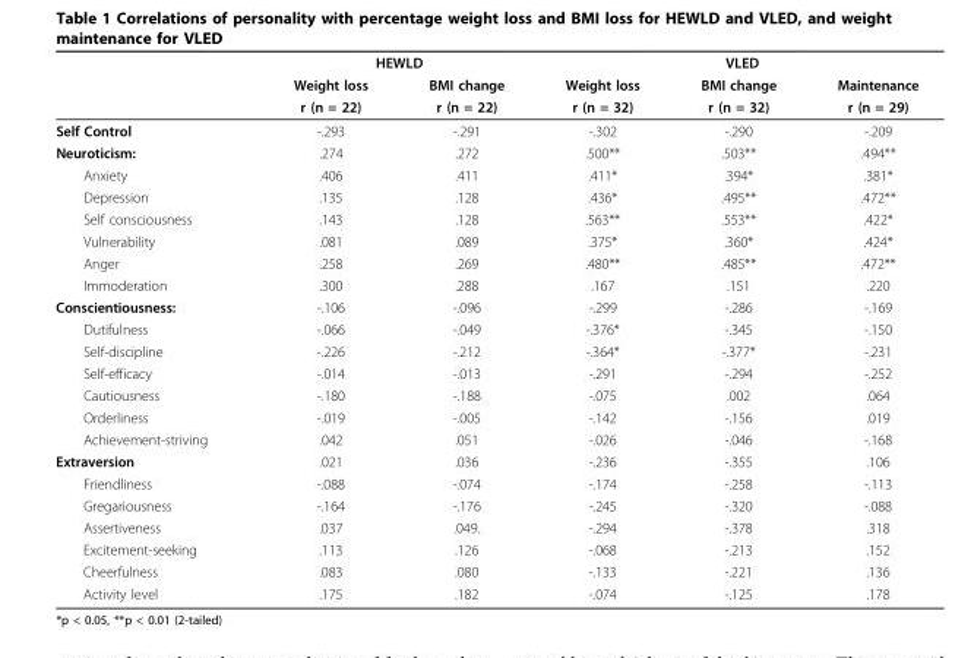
<table><thead><tr><td rowspan="3"></td><td colspan="2">HEWLD</td><td colspan="3">VLED</td></tr><tr><td rowspan="2">Weight loss r (n = 22)</td><td rowspan="2">BMI change r (n = 22)</td><td rowspan="2">Weight loss r (n = 32)</td><td rowspan="2">BMI change r (n = 32)</td><td rowspan="2">Maintenance r (n = 29)</td></tr><tr></tr></thead><tbody><tr><td>Self Control</td><td>-.293</td><td>-.291</td><td>-.302</td><td>-.290</td><td>-.209</td></tr><tr><td>Neuroticism:</td><td>.274</td><td>.272</td><td>.500**</td><td>.503**</td><td>.494**</td></tr><tr><td>Anxiety</td><td>.406</td><td>.411</td><td>.411*</td><td>.394*</td><td>.381*</td></tr><tr><td>Depression</td><td>.135</td><td>.128</td><td>.436*</td><td>.495**</td><td>.472**</td></tr><tr><td>Self consciousness</td><td>.143</td><td>.128</td><td>.563**</td><td>.553**</td><td>.422*</td></tr><tr><td>Vulnerability</td><td>.081</td><td>.089</td><td>.375*</td><td>.360*</td><td>.424*</td></tr><tr><td>Anger</td><td>.258</td><td>.269</td><td>.480**</td><td>.485**</td><td>.472**</td></tr><tr><td>Immoderation</td><td>.300</td><td>.288</td><td>.167</td><td>.151</td><td>.220</td></tr><tr><td>Conscientiousness:</td><td>-.106</td><td>-.096</td><td>-.299</td><td>-.286</td><td>-.169</td></tr><tr><td>Dutifulness</td><td>-.066</td><td>-.049</td><td>-.376*</td><td>-.345</td><td>-.150</td></tr><tr><td>Self-discipline</td><td>-.226</td><td>-.212</td><td>-.364*</td><td>-.377*</td><td>-.231</td></tr><tr><td>Self-efficacy</td><td>-.014</td><td>-.013</td><td>-.291</td><td>-.294</td><td>-.252</td></tr><tr><td>Cautiousness</td><td>-.180</td><td>-.188</td><td>-.075</td><td>.002</td><td>.064</td></tr><tr><td>Orderliness</td><td>-.019</td><td>-.005</td><td>-.142</td><td>-.156</td><td>.019</td></tr><tr><td>Achievement-striving</td><td>.042</td><td>.051</td><td>-.026</td><td>-.046</td><td>-.168</td></tr><tr><td>Extraversion</td><td>.021</td><td>.036</td><td>-.236</td><td>-.355</td><td>.106</td></tr><tr><td>Friendliness</td><td>-.088</td><td>-.074</td><td>-.174</td><td>-.258</td><td>-.113</td></tr><tr><td>Gregariousness</td><td>-.164</td><td>-.176</td><td>-.245</td><td>-.320</td><td>-.088</td></tr><tr><td>Assertiveness</td><td>.037</td><td>.049.</td><td>-.294</td><td>-.378</td><td>.318</td></tr><tr><td>Excitement-seeking</td><td>.113</td><td>.126</td><td>-.068</td><td>-.213</td><td>.152</td></tr><tr><td>Cheerfulness</td><td>.083</td><td>.080</td><td>-.133</td><td>-.221</td><td>.136</td></tr><tr><td>Activity level</td><td>.175</td><td>.182</td><td>-.074</td><td>-.125</td><td>.178</td></tr></tbody></table>